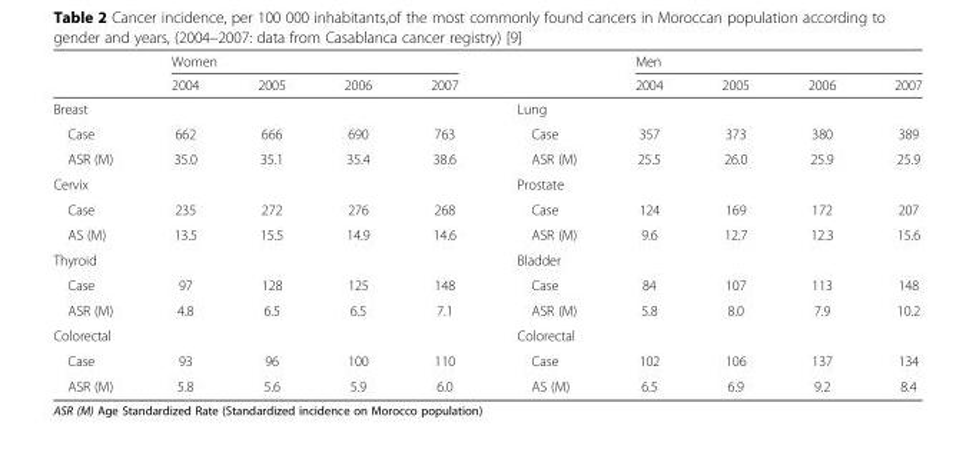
<table><thead><tr><td rowspan="2"></td><td colspan="4">Women</td><td rowspan="2"></td><td colspan="4">Men</td></tr><tr><td>2004</td><td>2005</td><td>2006</td><td>2007</td><td>2004</td><td>2005</td><td>2006</td><td>2007</td></tr></thead><tbody><tr><td>Breast</td><td></td><td></td><td></td><td></td><td>Lung</td><td></td><td></td><td></td><td></td></tr><tr><td>Case</td><td>662</td><td>666</td><td>690</td><td>763</td><td>Case</td><td>357</td><td>373</td><td>380</td><td>389</td></tr><tr><td>ASR (M)</td><td>35.0</td><td>35.1</td><td>35.4</td><td>38.6</td><td>ASR (M)</td><td>25.5</td><td>26.0</td><td>25.9</td><td>25.9</td></tr><tr><td>Cervix</td><td></td><td></td><td></td><td></td><td>Prostate</td><td></td><td></td><td></td><td></td></tr><tr><td>Case</td><td>235</td><td>272</td><td>276</td><td>268</td><td>Case</td><td>124</td><td>169</td><td>172</td><td>207</td></tr><tr><td>AS (M)</td><td>13.5</td><td>15.5</td><td>14.9</td><td>14.6</td><td>ASR (M)</td><td>9.6</td><td>12.7</td><td>12.3</td><td>15.6</td></tr><tr><td>Thyroid</td><td></td><td></td><td></td><td></td><td>Bladder</td><td></td><td></td><td></td><td></td></tr><tr><td>Case</td><td>97</td><td>128</td><td>125</td><td>148</td><td>Case</td><td>84</td><td>107</td><td>113</td><td>148</td></tr><tr><td>ASR (M)</td><td>4.8</td><td>6.5</td><td>6.5</td><td>7.1</td><td>ASR (M)</td><td>5.8</td><td>8.0</td><td>7.9</td><td>10.2</td></tr><tr><td>Colorectal</td><td></td><td></td><td></td><td></td><td>Colorectal</td><td></td><td></td><td></td><td></td></tr><tr><td>Case</td><td>93</td><td>96</td><td>100</td><td>110</td><td>Case</td><td>102</td><td>106</td><td>137</td><td>134</td></tr><tr><td>ASR (M)</td><td>5.8</td><td>5.6</td><td>5.9</td><td>6.0</td><td>AS (M)</td><td>6.5</td><td>6.9</td><td>9.2</td><td>8.4</td></tr></tbody></table>